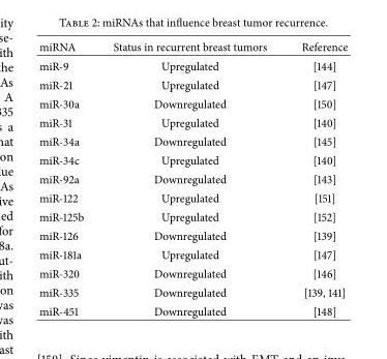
<table><thead><tr><td>miRNA</td><td>Status in recurrent breast tumors</td><td>Reference</td></tr></thead><tbody><tr><td>miR-9</td><td>Upregulated</td><td>[144]</td></tr><tr><td>miR-21</td><td>Upregulated</td><td>[147]</td></tr><tr><td>miR-30a</td><td>Downregulated</td><td>[150]</td></tr><tr><td>miR-31</td><td>Upregulated</td><td>[140]</td></tr><tr><td>miR-34a</td><td>Downregulated</td><td>[145]</td></tr><tr><td>miR-34c</td><td>Upregulated</td><td>[140]</td></tr><tr><td>miR-92a</td><td>Downregulated</td><td>[143]</td></tr><tr><td>miR-122</td><td>Upregulated</td><td>[151]</td></tr><tr><td>miR-125b</td><td>Upregulated</td><td>[152]</td></tr><tr><td>miR-126</td><td>Downregulated</td><td>[139]</td></tr><tr><td>miR-181a</td><td>Upregulated</td><td>[147]</td></tr><tr><td>miR-320</td><td>Downregulated</td><td>[146]</td></tr><tr><td>miR-335</td><td>Downregulated</td><td>[139, 141]</td></tr><tr><td>miR-451</td><td>Downregulated</td><td>[148]</td></tr></tbody></table>